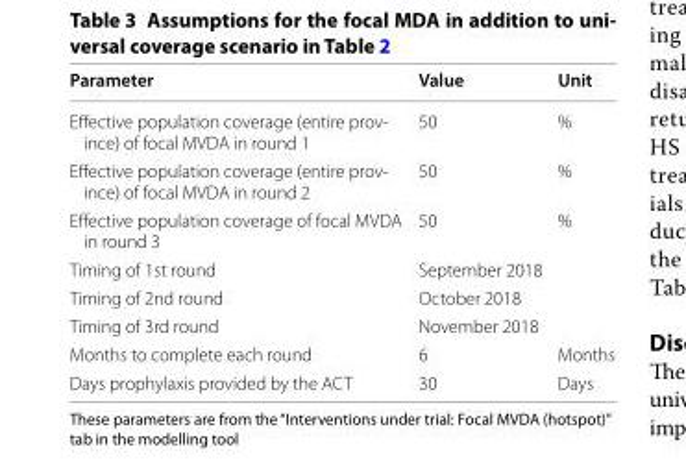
<table><thead><tr><td>Parameter</td><td>Value</td><td>Unit</td></tr></thead><tbody><tr><td>Effective population coverage (entire prov‑ ince) of focal MVDA in round 1</td><td>50</td><td>%</td></tr><tr><td>Effective population coverage (entire prov‑ ince) of focal MVDA in round 2</td><td>50</td><td>%</td></tr><tr><td>Effective population coverage of focal MVDA in round 3</td><td>50</td><td>%</td></tr><tr><td>Timing of 1st round</td><td>September 2018</td><td></td></tr><tr><td>Timing of 2nd round</td><td>October 2018</td><td></td></tr><tr><td>Timing of 3rd round</td><td>November 2018</td><td></td></tr><tr><td>Months to complete each round</td><td>6</td><td>Months</td></tr><tr><td>Days prophylaxis provided by the ACT</td><td>30</td><td>Days</td></tr></tbody></table>